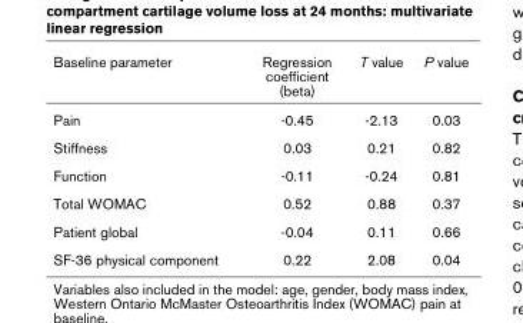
<table><thead><tr><td>Baseline parameter</td><td>Regression coefficient (beta)</td><td>T value</td><td>P value</td></tr></thead><tbody><tr><td>Pain</td><td>-0.45</td><td>-2.13</td><td>0.03</td></tr><tr><td>Stiffness</td><td>0.03</td><td>0.21</td><td>0.82</td></tr><tr><td>Function</td><td>-0.11</td><td>-0.24</td><td>0.81</td></tr><tr><td>Total WOMAC</td><td>0.52</td><td>0.88</td><td>0.37</td></tr><tr><td>Patient global</td><td>-0.04</td><td>0.11</td><td>0.66</td></tr><tr><td>SF-36 physical component</td><td>0.22</td><td>2.08</td><td>0.04</td></tr></tbody></table>